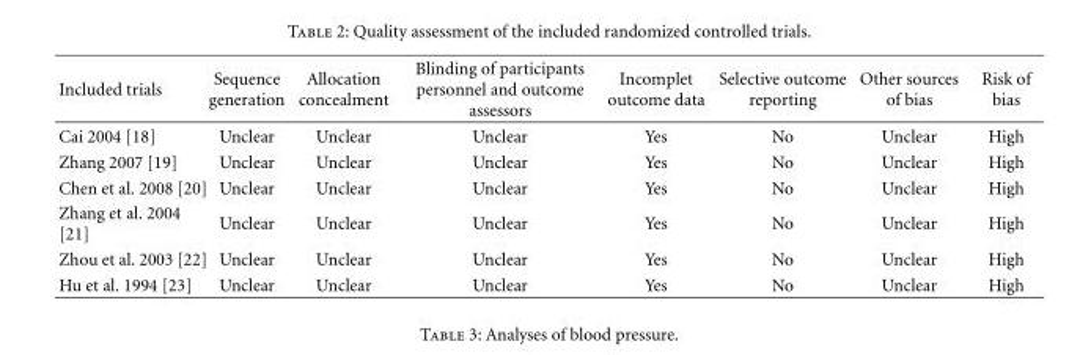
<table><thead><tr><td>Included trials</td><td>Sequence generation</td><td>Allocation concealment</td><td>Blinding of participants personnel and outcome assessors</td><td>Incomplet outcome data</td><td>Selective outcome reporting</td><td>Other sources of bias</td><td>Risk of bias</td></tr></thead><tbody><tr><td>Cai 2004 [18]</td><td>Unclear</td><td>Unclear</td><td>Unclear</td><td>Yes</td><td>No</td><td>Unclear</td><td>High</td></tr><tr><td>Zhang 2007 [19]</td><td>Unclear</td><td>Unclear</td><td>Unclear</td><td>Yes</td><td>No</td><td>Unclear</td><td>High</td></tr><tr><td>Chen et al. 2008 [20]</td><td>Unclear</td><td>Unclear</td><td>Unclear</td><td>Yes</td><td>No</td><td>Unclear</td><td>High</td></tr><tr><td>Zhang et al. 2004 [21]</td><td>Unclear</td><td>Unclear</td><td>Unclear</td><td>Yes</td><td>No</td><td>Unclear</td><td>High</td></tr><tr><td>Zhou et al. 2003 [22]</td><td>Unclear</td><td>Unclear</td><td>Unclear</td><td>Yes</td><td>No</td><td>Unclear</td><td>High</td></tr><tr><td>Hu et al. 1994 [23]</td><td>Unclear</td><td>Unclear</td><td>Unclear</td><td>Yes</td><td>No</td><td>Unclear</td><td>High</td></tr></tbody></table>